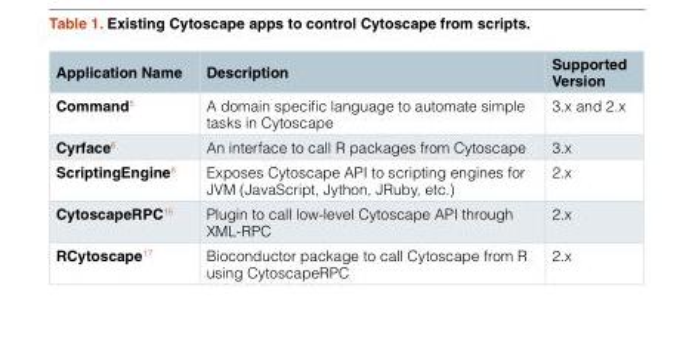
<table><thead><tr><td>Application Name</td><td>Description</td><td>Supported Version</td></tr></thead><tbody><tr><td>Command<sup>5</sup></td><td>A domain specific language to automate simple tasks in Cytoscape</td><td>3.x and 2.x</td></tr><tr><td>Cyrface<sup>6</sup></td><td>An interface to call R packages from Cytoscape</td><td>3.x</td></tr><tr><td>ScriptingEngine<sup>8</sup></td><td>Exposes Cytoscape API to scripting engines for JVM (JavaScript, Jython, JRuby, etc.)</td><td>2.x</td></tr><tr><td>CytoscapeRPC<sup>15</sup></td><td>Plugin to call low-level Cytoscape API through XML-RPC</td><td>2.x</td></tr><tr><td>RCytoscape<sup>17</sup></td><td>Bioconductor package to call Cytoscape from R using CytoscapeRPC</td><td>2.x</td></tr></tbody></table>